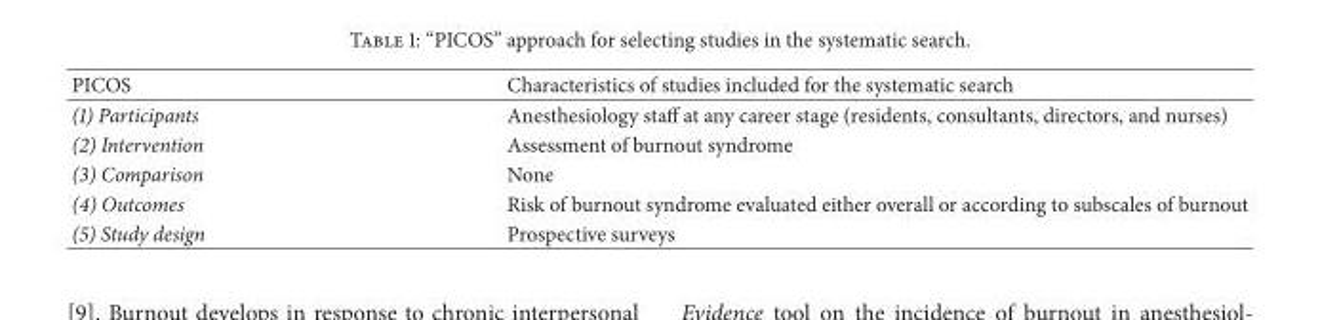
<table><thead><tr><td>PICOS</td><td>Characteristics of studies included for the systematic search</td></tr></thead><tbody><tr><td>(1) Participants</td><td>Anesthesiology staff at any career stage (residents, consultants, directors, and nurses)</td></tr><tr><td>(2) Intervention</td><td>Assessment of burnout syndrome</td></tr><tr><td>(3) Comparison</td><td>None</td></tr><tr><td>(4) Outcomes</td><td>Risk of burnout syndrome evaluated either overall or according to subscales of burnout</td></tr><tr><td>(5) Study design</td><td>Prospective surveys</td></tr></tbody></table>